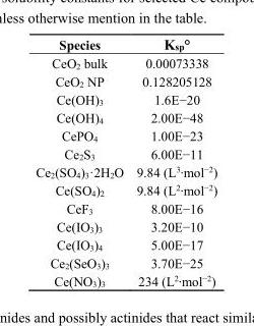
<table><thead><tr><td>Species</td><td>K<sub>sp</sub>°</td></tr></thead><tbody><tr><td>CeO<sub>2</sub> bulk</td><td>0.00073338</td></tr><tr><td>CeO<sub>2</sub> NP</td><td>0.128205128</td></tr><tr><td>Ce(OH)<sub>3</sub></td><td>1.6E−20</td></tr><tr><td>Ce(OH)<sub>4</sub></td><td>2.00E−48</td></tr><tr><td>CePO<sub>4</sub></td><td>1.00E−23</td></tr><tr><td>Ce<sub>2</sub>S<sub>3</sub></td><td>6.00E−11</td></tr><tr><td>Ce<sub>2</sub>(SO<sub>4</sub>)<sub>3</sub>·2H<sub>2</sub>O</td><td>9.84 (L<sup>3</sup>∙mol<sup>−2</sup>)</td></tr><tr><td>Ce(SO<sub>4</sub>)<sub>2</sub></td><td>9.84 (L<sup>2</sup>∙mol<sup>−2</sup>)</td></tr><tr><td>CeF<sub>3</sub></td><td>8.00E−16</td></tr><tr><td>Ce(IO<sub>3</sub>)<sub>3</sub></td><td>3.20E−10</td></tr><tr><td>Ce(IO<sub>3</sub>)<sub>4</sub></td><td>5.00E−17</td></tr><tr><td>Ce<sub>2</sub>(SeO<sub>3</sub>)<sub>3</sub></td><td>3.70E−25</td></tr><tr><td>Ce(NO<sub>3</sub>)<sub>3</sub></td><td>234 (L<sup>2</sup>∙mol<sup>−2</sup>)</td></tr></tbody></table>